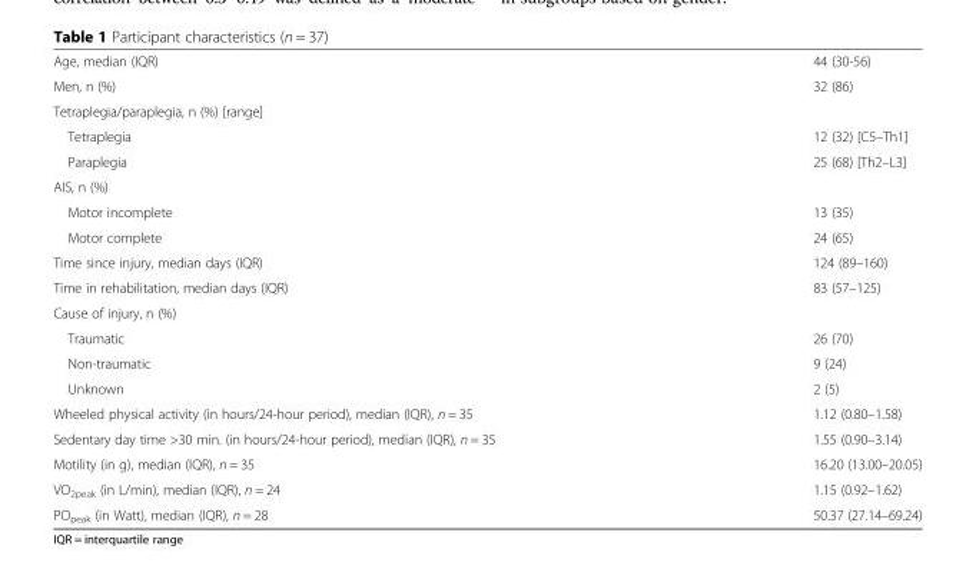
<table><tbody><tr><td>Age, median (IQR)</td><td>44 (30-56)</td></tr><tr><td>Men, n (%)</td><td>32 (86)</td></tr><tr><td colspan="2">Tetraplegia/paraplegia, n (%) [range]</td></tr><tr><td>Tetraplegia</td><td>12 (32) [C5–Th1]</td></tr><tr><td>Paraplegia</td><td>25 (68) [Th2–L3]</td></tr><tr><td colspan="2">AIS, n (%)</td></tr><tr><td>Motor incomplete</td><td>13 (35)</td></tr><tr><td>Motor complete</td><td>24 (65)</td></tr><tr><td>Time since injury, median days (IQR)</td><td>124 (89–160)</td></tr><tr><td>Time in rehabilitation, median days (IQR)</td><td>83 (57–125)</td></tr><tr><td colspan="2">Cause of injury, n (%)</td></tr><tr><td>Traumatic</td><td>26 (70)</td></tr><tr><td>Non-traumatic</td><td>9 (24)</td></tr><tr><td>Unknown</td><td>2 (5)</td></tr><tr><td>Wheeled physical activity (in hours/24-hour period), median (IQR), n = 35</td><td>1.12 (0.80–1.58)</td></tr><tr><td>Sedentary day time &gt;30 min. (in hours/24-hour period), median (IQR), n = 35</td><td>1.55 (0.90–3.14)</td></tr><tr><td>Motility (in g), median (IQR), n = 35</td><td>16.20 (13.00–20.05)</td></tr><tr><td>VO<sub>2peak</sub> (in L/min), median (IQR), n = 24</td><td>1.15 (0.92–1.62)</td></tr><tr><td>PO<sub>peak</sub> (in Watt), median (IQR), n = 28</td><td>50.37 (27.14–69.24)</td></tr></tbody></table>